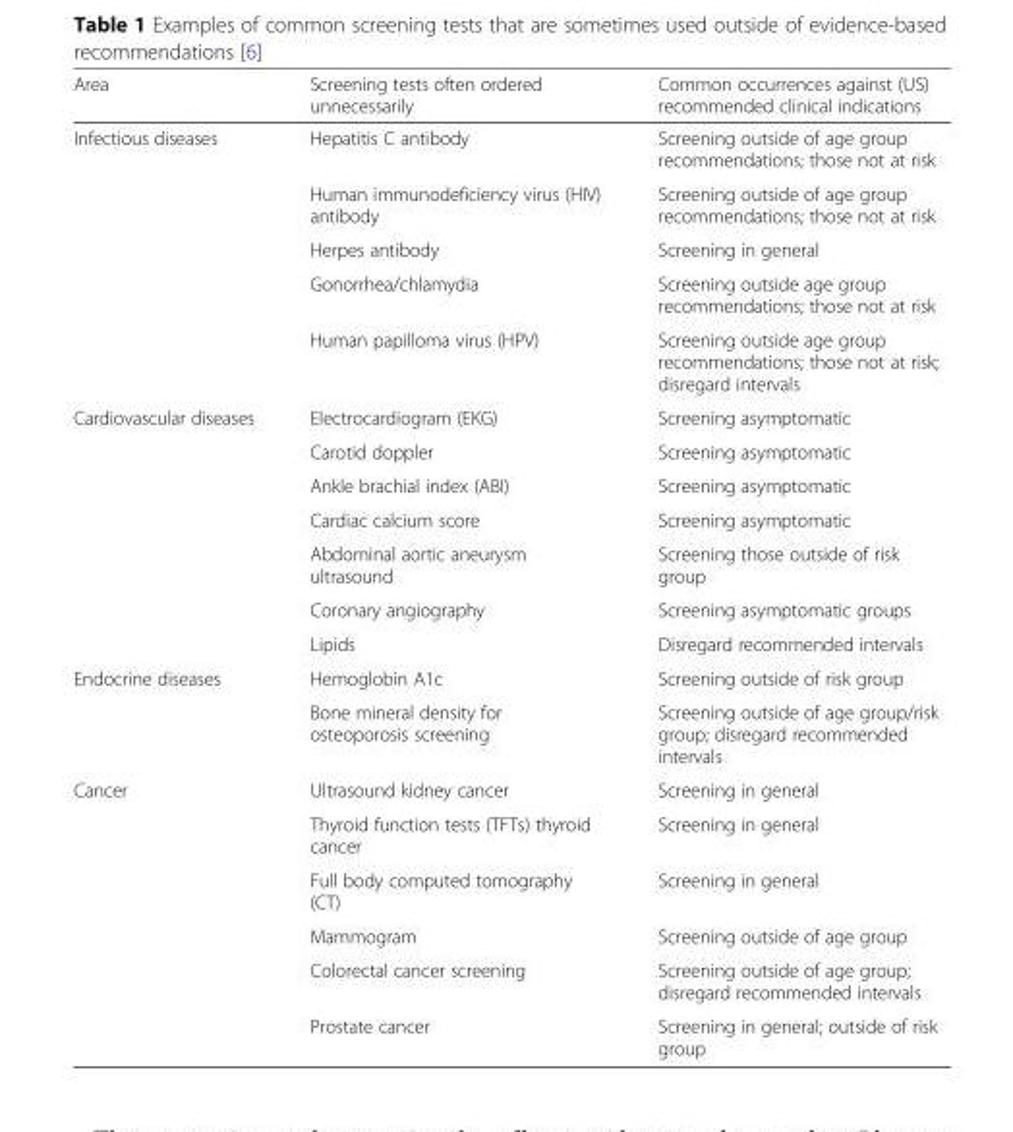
<table><thead><tr><td>Area</td><td>Screening tests often ordered unnecessarily</td><td>Common occurrences against (US) recommended clinical indications</td></tr></thead><tbody><tr><td rowspan="5">Infectious diseases</td><td>Hepatitis C antibody</td><td>Screening outside of age group recommendations; those not at risk</td></tr><tr><td>Human immunodeficiency virus (HIV) antibody</td><td>Screening outside of age group recommendations; those not at risk</td></tr><tr><td>Herpes antibody</td><td>Screening in general</td></tr><tr><td>Gonorrhea/chlamydia</td><td>Screening outside age group recommendations; those not at risk</td></tr><tr><td>Human papilloma virus (HPV)</td><td>Screening outside age group recommendations; those not at risk; disregard intervals</td></tr><tr><td rowspan="7">Cardiovascular diseases</td><td>Electrocardiogram (EKG)</td><td>Screening asymptomatic</td></tr><tr><td>Carotid doppler</td><td>Screening asymptomatic</td></tr><tr><td>Ankle brachial index (ABI)</td><td>Screening asymptomatic</td></tr><tr><td>Cardiac calcium score</td><td>Screening asymptomatic</td></tr><tr><td>Abdominal aortic aneurysm ultrasound</td><td>Screening those outside of risk group</td></tr><tr><td>Coronary angiography</td><td>Screening asymptomatic groups</td></tr><tr><td>Lipids</td><td>Disregard recommended intervals</td></tr><tr><td rowspan="2">Endocrine diseases</td><td>Hemoglobin A1c</td><td>Screening outside of risk group</td></tr><tr><td>Bone mineral density for osteoporosis screening</td><td>Screening outside of age group/risk group; disregard recommended intervals</td></tr><tr><td rowspan="6">Cancer</td><td>Ultrasound kidney cancer</td><td>Screening in general</td></tr><tr><td>Thyroid function tests (TFTs) thyroid cancer</td><td>Screening in general</td></tr><tr><td>Full body computed tomography (CT)</td><td>Screening in general</td></tr><tr><td>Mammogram</td><td>Screening outside of age group</td></tr><tr><td>Colorectal cancer screening</td><td>Screening outside of age group; disregard recommended intervals</td></tr><tr><td>Prostate cancer</td><td>Screening in general; outside of risk group</td></tr></tbody></table>